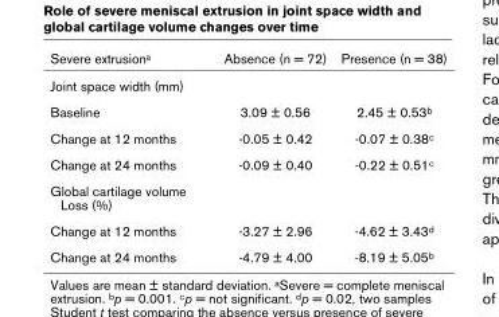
<table><thead><tr><td>Severe extrusiona</td><td>Absence (n = 72)</td><td>Presence (n = 38)</td></tr></thead><tbody><tr><td colspan="3">Joint space width (mm)</td></tr><tr><td>Baseline</td><td>3.09 ± 0.56</td><td>2.45 ± 0.53b</td></tr><tr><td>Change at 12 months</td><td>-0.05 ± 0.42</td><td>-0.07 ± 0.38c</td></tr><tr><td>Change at 24 months</td><td>-0.09 ± 0.40</td><td>-0.22 ± 0.51c</td></tr><tr><td colspan="3">Global cartilage volume Loss (%)</td></tr><tr><td>Change at 12 months</td><td>-3.27 ± 2.96</td><td>-4.62 ± 3.43d</td></tr><tr><td>Change at 24 months</td><td>-4.79 ± 4.00</td><td>-8.19 ± 5.05b</td></tr></tbody></table>